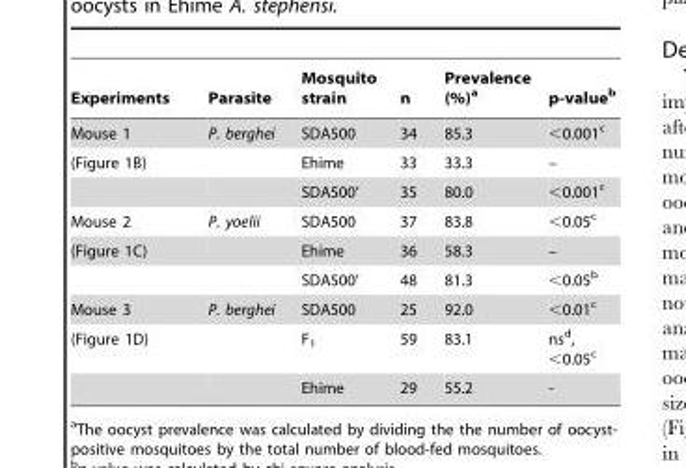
<table><thead><tr><td>Experiments</td><td>Parasite</td><td>Mosquito strain</td><td>n</td><td>Prevalence (%)<sup>a</sup></td><td>p-value<sup>b</sup></td></tr></thead><tbody><tr><td>Mouse 1</td><td>P. berghei</td><td>SDA500</td><td>34</td><td>85.3</td><td>&lt;0.001<sup>c</sup></td></tr><tr><td rowspan="2">(Figure 1B)</td><td></td><td>Ehime</td><td>33</td><td>33.3</td><td>–</td></tr><tr><td></td><td>SDA500’</td><td>35</td><td>80.0</td><td>&lt;0.001<sup>c</sup></td></tr><tr><td>Mouse 2</td><td>P. yoelii</td><td>SDA500</td><td>37</td><td>83.8</td><td>&lt;0.05<sup>c</sup></td></tr><tr><td rowspan="2">(Figure 1C)</td><td></td><td>Ehime</td><td>36</td><td>58.3</td><td>–</td></tr><tr><td></td><td>SDA500’</td><td>48</td><td>81.3</td><td>&lt;0.05<sup>b</sup></td></tr><tr><td>Mouse 3</td><td>P. berghei</td><td>SDA500</td><td>25</td><td>92.0</td><td>&lt;0.01<sup>c</sup></td></tr><tr><td rowspan="2">(Figure 1D)</td><td></td><td>F<sub>1</sub></td><td>59</td><td>83.1</td><td>ns<sup>d</sup>, &lt;0.05<sup>c</sup></td></tr><tr><td></td><td>Ehime</td><td>29</td><td>55.2</td><td>-</td></tr></tbody></table>